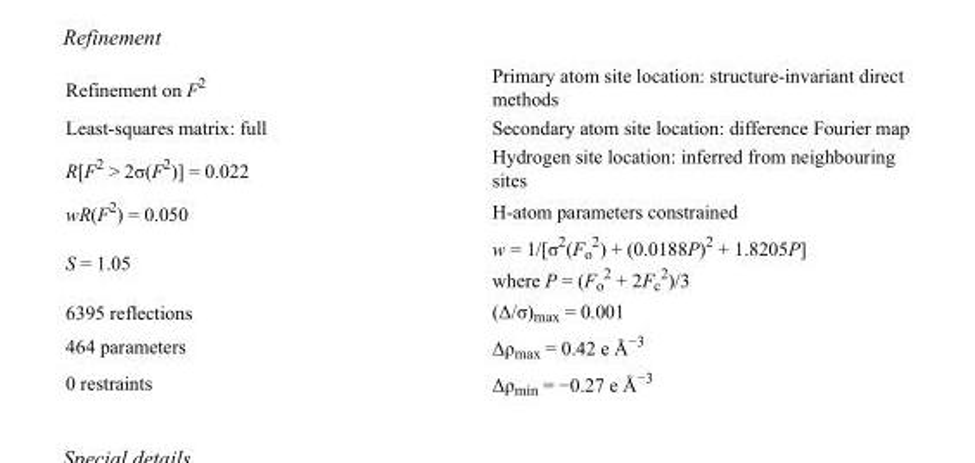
<table><tbody><tr><td>Refinement on F<sup>2</sup></td><td>Primary atom site location: structure-invariant direct methods</td></tr><tr><td>Least-squares matrix: full</td><td>Secondary atom site location: difference Fourier map</td></tr><tr><td>R[F<sup>2</sup> &gt; 2σ(F<sup>2</sup>)] = 0.022</td><td>Hydrogen site location: inferred from neighbouring sites</td></tr><tr><td>wR(F<sup>2</sup>) = 0.050</td><td>H-atom parameters constrained</td></tr><tr><td>S = 1.05</td><td>w = 1/[σ<sup>2</sup>(F<sub>o</sub> <sup>2</sup>) + (0.0188P)<sup>2</sup> + 1.8205P] where P = (F<sub>o</sub> <sup>2</sup> + 2F<sub>c</sub> <sup>2</sup>)/3</td></tr><tr><td>6395 reflections</td><td>(Δ/σ)<sub>max</sub> = 0.001</td></tr><tr><td>464 parameters</td><td>Δρ<sub>max</sub> = 0.42 e Å<sup>−3</sup></td></tr><tr><td>0 restraints</td><td>Δρ<sub>min</sub> = −0.27 e Å<sup>−3</sup></td></tr></tbody></table>